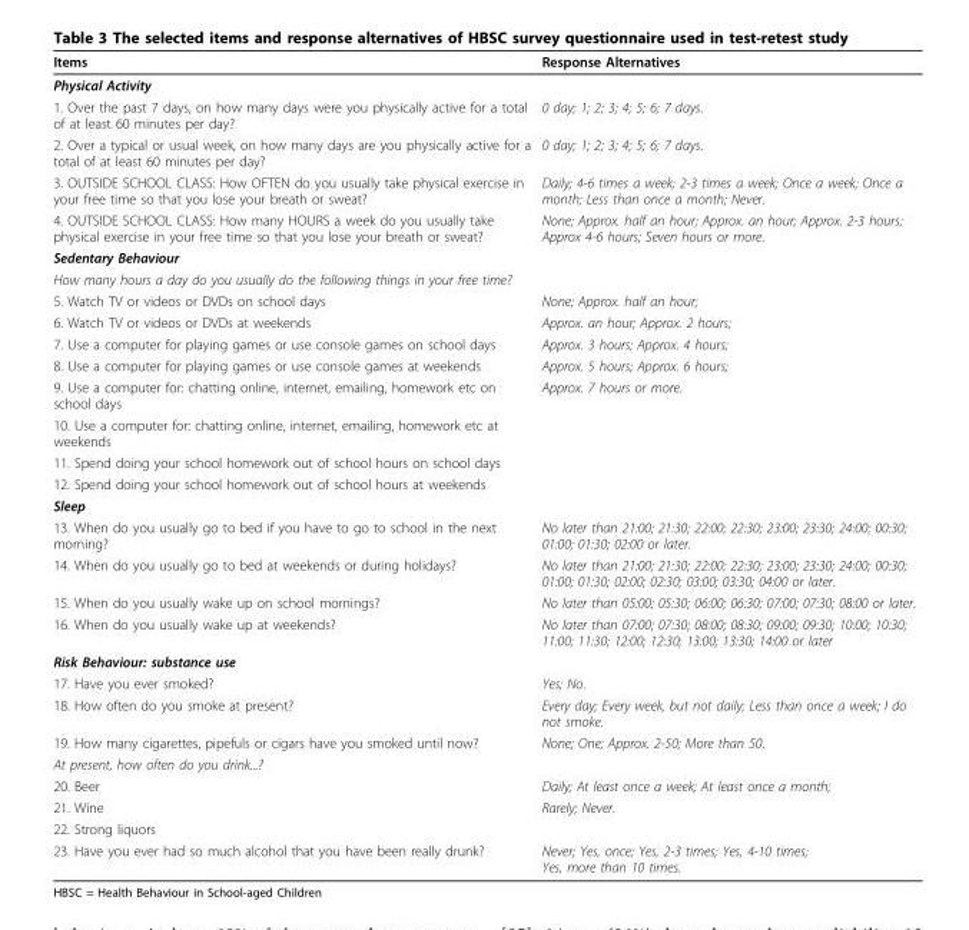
<table><thead><tr><td>Items</td><td>Response Alternatives</td></tr></thead><tbody><tr><td colspan="2">Physical Activity</td></tr><tr><td>1. Over the past 7 days, on how many days were you physically active for a total of at least 60 minutes per day?</td><td>0 day; 1; 2; 3; 4; 5; 6; 7 days.</td></tr><tr><td>2. Over a typical or usual week, on how many days are you physically active for a total of at least 60 minutes per day?</td><td>0 day; 1; 2; 3; 4; 5; 6; 7 days.</td></tr><tr><td>3. OUTSIDE SCHOOL CLASS: How OFTEN do you usually take physical exercise in your free time so that you lose your breath or sweat?</td><td>Daily; 4-6 times a week; 2-3 times a week; Once a week; Once a month; Less than once a month; Never.</td></tr><tr><td>4. OUTSIDE SCHOOL CLASS: How many HOURS a week do you usually take physical exercise in your free time so that you lose your breath or sweat?</td><td>None; Approx. half an hour; Approx. an hour; Approx. 2-3 hours; Approx 4-6 hours; Seven hours or more.</td></tr><tr><td colspan="2">Sedentary Behaviour</td></tr><tr><td colspan="2">How many hours a day do you usually do the following things in your free time?</td></tr><tr><td>5. Watch TV or videos or DVDs on school days</td><td>None; Approx. half an hour;</td></tr><tr><td>6. Watch TV or videos or DVDs at weekends</td><td>Approx. an hour; Approx. 2 hours;</td></tr><tr><td>7. Use a computer for playing games or use console games on school days</td><td>Approx. 3 hours; Approx. 4 hours;</td></tr><tr><td>8. Use a computer for playing games or use console games at weekends</td><td>Approx. 5 hours; Approx. 6 hours;</td></tr><tr><td>9. Use a computer for: chatting online, internet, emailing, homework etc on school days</td><td>Approx. 7 hours or more.</td></tr><tr><td colspan="2">10. Use a computer for: chatting online, internet, emailing, homework etc at weekends</td></tr><tr><td colspan="2">11. Spend doing your school homework out of school hours on school days</td></tr><tr><td colspan="2">12. Spend doing your school homework out of school hours at weekends</td></tr><tr><td colspan="2">Sleep</td></tr><tr><td>13. When do you usually go to bed if you have to go to school in the next morning?</td><td>No later than 21:00; 21:30; 22:00; 22:30; 23:00; 23:30; 24:00; 00:30; 01:00; 01:30; 02:00 or later.</td></tr><tr><td>14. When do you usually go to bed at weekends or during holidays?</td><td>No later than 21:00; 21:30; 22:00; 22:30; 23:00; 23:30; 24:00; 00:30; 01:00; 01:30; 02:00; 02:30; 03:00; 03:30; 04:00 or later.</td></tr><tr><td>15. When do you usually wake up on school mornings?</td><td>No later than 05:00; 05:30; 06:00; 06:30; 07:00; 07:30; 08:00 or later.</td></tr><tr><td>16. When do you usually wake up at weekends?</td><td>No later than 07:00; 07:30; 08:00; 08:30; 09:00; 09:30; 10:00; 10:30; 11:00; 11:30; 12:00; 12:30; 13:00; 13:30; 14:00 or later</td></tr><tr><td colspan="2">Risk Behaviour: substance use</td></tr><tr><td>17. Have you ever smoked?</td><td>Yes; No.</td></tr><tr><td>18. How often do you smoke at present?</td><td>Every day; Every week, but not daily; Less than once a week; I do not smoke.</td></tr><tr><td>19. How many cigarettes, pipefuls or cigars have you smoked until now?</td><td>None; One; Approx. 2-50; More than 50.</td></tr><tr><td colspan="2">At present, how often do you drink...?</td></tr><tr><td>20. Beer</td><td>Daily; At least once a week; At least once a month;</td></tr><tr><td>21. Wine</td><td>Rarely; Never.</td></tr><tr><td colspan="2">22. Strong liquors</td></tr><tr><td>23. Have you ever had so much alcohol that you have been really drunk?</td><td>Never; Yes, once; Yes, 2-3 times; Yes, 4-10 times; Yes, more than 10 times.</td></tr></tbody></table>